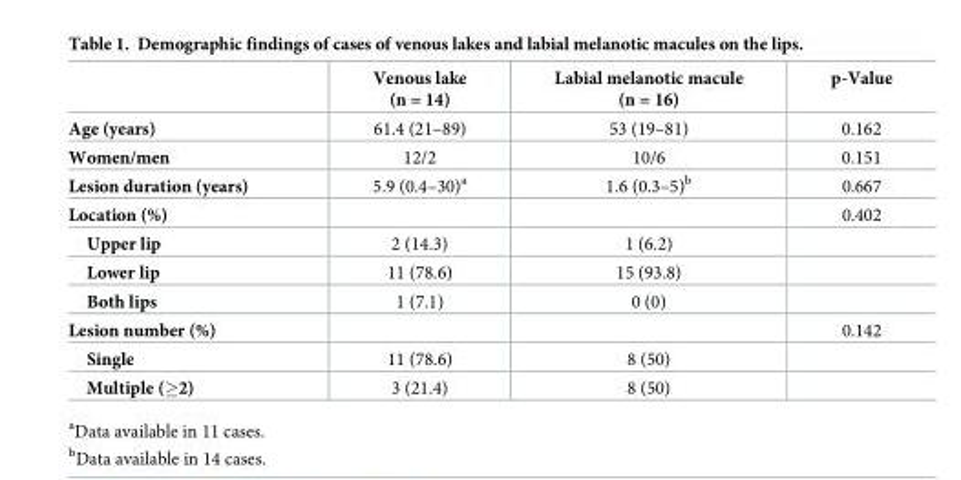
<table><thead><tr><td></td><td>Venous lake (n = 14)</td><td>Labial melanotic macule (n = 16)</td><td>p-Value</td></tr></thead><tbody><tr><td>Age (years)</td><td>61.4 (21–89)</td><td>53 (19–81)</td><td>0.162</td></tr><tr><td>Women/men</td><td>12/2</td><td>10/6</td><td>0.151</td></tr><tr><td>Lesion duration (years)</td><td>5.9 (0.4–30)<sup>a</sup></td><td>1.6 (0.3–5)<sup>b</sup></td><td>0.667</td></tr><tr><td>Location (%)</td><td></td><td></td><td>0.402</td></tr><tr><td>Upper lip</td><td>2 (14.3)</td><td>1 (6.2)</td><td></td></tr><tr><td>Lower lip</td><td>11 (78.6)</td><td>15 (93.8)</td><td></td></tr><tr><td>Both lips</td><td>1 (7.1)</td><td>0 (0)</td><td></td></tr><tr><td>Lesion number (%)</td><td></td><td></td><td>0.142</td></tr><tr><td>Single</td><td>11 (78.6)</td><td>8 (50)</td><td></td></tr><tr><td>Multiple (≥2)</td><td>3 (21.4)</td><td>8 (50)</td><td></td></tr></tbody></table>